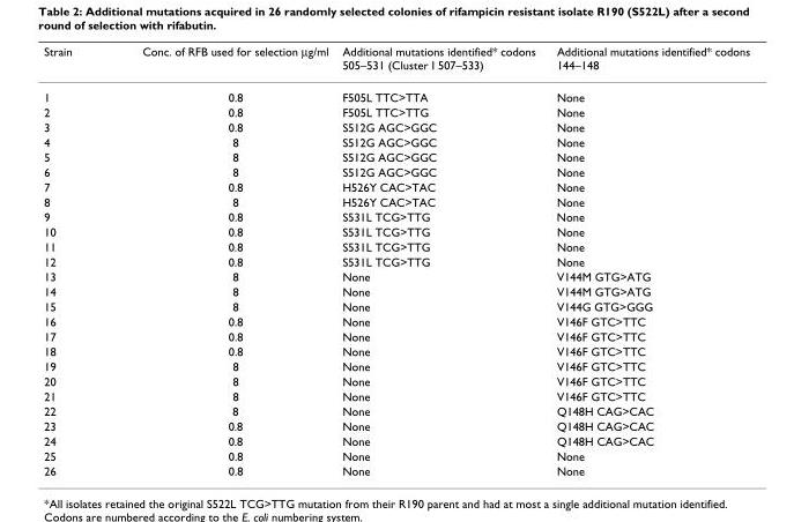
<table><thead><tr><td>Strain</td><td>Conc. of RFB used for selection µg/ml</td><td>Additional mutations identified* codons 505–531 (Cluster I 507–533)</td><td>Additional mutations identified* codons 144–148</td></tr></thead><tbody><tr><td>1</td><td>0.8</td><td>F505L TTC&gt;TTA</td><td>None</td></tr><tr><td>2</td><td>0.8</td><td>F505L TTC&gt;TTG</td><td>None</td></tr><tr><td>3</td><td>0.8</td><td>S512G AGC&gt;GGC</td><td>None</td></tr><tr><td>4</td><td>8</td><td>S512G AGC&gt;GGC</td><td>None</td></tr><tr><td>5</td><td>8</td><td>S512G AGC&gt;GGC</td><td>None</td></tr><tr><td>6</td><td>8</td><td>S512G AGC&gt;GGC</td><td>None</td></tr><tr><td>7</td><td>0.8</td><td>H526Y CAC&gt;TAC</td><td>None</td></tr><tr><td>8</td><td>8</td><td>H526Y CAC&gt;TAC</td><td>None</td></tr><tr><td>9</td><td>0.8</td><td>S531L TCG&gt;TTG</td><td>None</td></tr><tr><td>10</td><td>0.8</td><td>S531L TCG&gt;TTG</td><td>None</td></tr><tr><td>11</td><td>0.8</td><td>S531L TCG&gt;TTG</td><td>None</td></tr><tr><td>12</td><td>0.8</td><td>S531L TCG&gt;TTG</td><td>None</td></tr><tr><td>13</td><td>8</td><td>None</td><td>V144M GTG&gt;ATG</td></tr><tr><td>14</td><td>8</td><td>None</td><td>V144M GTG&gt;ATG</td></tr><tr><td>15</td><td>8</td><td>None</td><td>V144G GTG&gt;GGG</td></tr><tr><td>16</td><td>0.8</td><td>None</td><td>V146F GTC&gt;TTC</td></tr><tr><td>17</td><td>0.8</td><td>None</td><td>V146F GTC&gt;TTC</td></tr><tr><td>18</td><td>0.8</td><td>None</td><td>V146F GTC&gt;TTC</td></tr><tr><td>19</td><td>8</td><td>None</td><td>V146F GTC&gt;TTC</td></tr><tr><td>20</td><td>8</td><td>None</td><td>V146F GTC&gt;TTC</td></tr><tr><td>21</td><td>8</td><td>None</td><td>V146F GTC&gt;TTC</td></tr><tr><td>22</td><td>8</td><td>None</td><td>Q148H CAG&gt;CAC</td></tr><tr><td>23</td><td>0.8</td><td>None</td><td>Q148H CAG&gt;CAC</td></tr><tr><td>24</td><td>0.8</td><td>None</td><td>Q148H CAG&gt;CAC</td></tr><tr><td>25</td><td>0.8</td><td>None</td><td>None</td></tr><tr><td>26</td><td>0.8</td><td>None</td><td>None</td></tr></tbody></table>